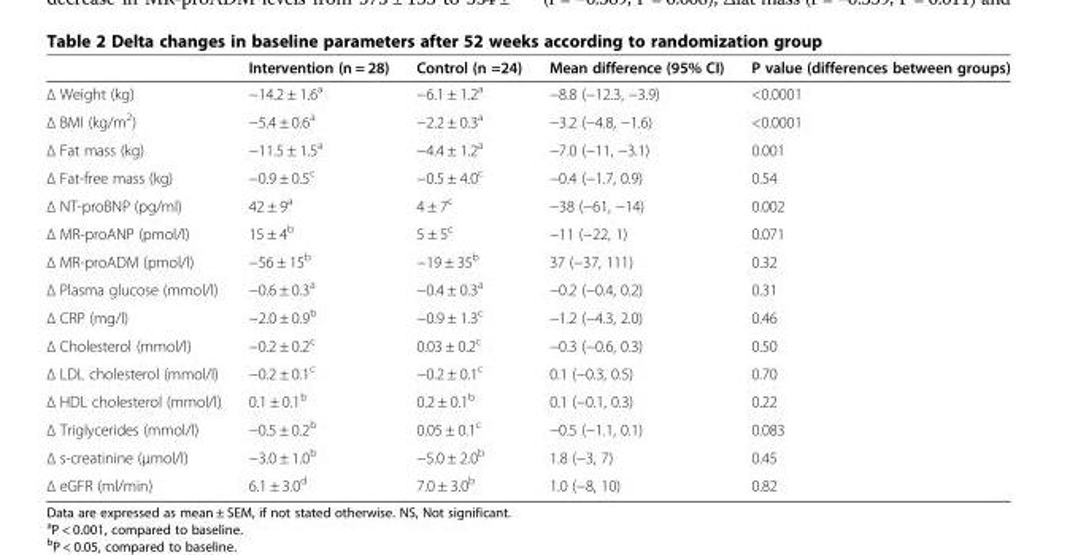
<table><thead><tr><td></td><td>Intervention (n = 28)</td><td>Control (n =24)</td><td>Mean difference (95% CI)</td><td>P value (differences between groups)</td></tr></thead><tbody><tr><td>Weight (kg)</td><td>−14.2 ± 1.6<sup>a</sup></td><td>−6.1 ± 1.2<sup>a</sup></td><td>−8.8 (−12.3, −3.9)</td><td>&lt;0.0001</td></tr><tr><td>BMI (kg/m2)</td><td>−5.4 ± 0.6<sup>a</sup></td><td>−2.2 ± 0.3<sup>a</sup></td><td>−3.2 (−4.8, −1.6)</td><td>&lt;0.0001</td></tr><tr><td>Fat mass (kg)</td><td>−11.5 ± 1.5<sup>a</sup></td><td>−4.4 ± 1.2<sup>a</sup></td><td>−7.0 (−11, −3.1)</td><td>0.001</td></tr><tr><td>Fat-free mass (kg)</td><td>−0.9 ± 0.5<sup>c</sup></td><td>−0.5 ± 4.0<sup>c</sup></td><td>−0.4 (−1.7, 0.9)</td><td>0.54</td></tr><tr><td>NT-proBNP (pg/ml)</td><td>42 ± 9<sup>a</sup></td><td>4 ± 7<sup>c</sup></td><td>−38 (−61, −14)</td><td>0.002</td></tr><tr><td>MR-proANP (pmol/l)</td><td>15 ± 4<sup>b</sup></td><td>5 ± 5<sup>c</sup></td><td>−11 (−22, 1)</td><td>0.071</td></tr><tr><td>MR-proADM (pmol/l)</td><td>−56 ± 15<sup>b</sup></td><td>−19 ± 35<sup>b</sup></td><td>37 (−37, 111)</td><td>0.32</td></tr><tr><td>Plasma glucose (mmol/l)</td><td>−0.6 ± 0.3<sup>a</sup></td><td>−0.4 ± 0.3<sup>a</sup></td><td>−0.2 (−0.4, 0.2)</td><td>0.31</td></tr><tr><td>CRP (mg/l)</td><td>−2.0 ± 0.9<sup>b</sup></td><td>−0.9 ± 1.3<sup>c</sup></td><td>−1.2 (−4.3, 2.0)</td><td>0.46</td></tr><tr><td>Cholesterol (mmol/l)</td><td>−0.2 ± 0.2<sup>c</sup></td><td>0.03 ± 0.2<sup>c</sup></td><td>−0.3 (−0.6, 0.3)</td><td>0.50</td></tr><tr><td>LDL cholesterol (mmol/l)</td><td>−0.2 ± 0.1<sup>c</sup></td><td>−0.2 ± 0.1<sup>c</sup></td><td>0.1 (−0.3, 0.5)</td><td>0.70</td></tr><tr><td>HDL cholesterol (mmol/l)</td><td>0.1 ± 0.1<sup>b</sup></td><td>0.2 ± 0.1<sup>b</sup></td><td>0.1 (−0.1, 0.3)</td><td>0.22</td></tr><tr><td>Triglycerides (mmol/l)</td><td>−0.5 ± 0.2<sup>b</sup></td><td>0.05 ± 0.1<sup>c</sup></td><td>−0.5 (−1.1, 0.1)</td><td>0.083</td></tr><tr><td>s-creatinine (μmol/l)</td><td>−3.0 ± 1.0<sup>b</sup></td><td>−5.0 ± 2.0<sup>b</sup></td><td>1.8 (−3, 7)</td><td>0.45</td></tr><tr><td>eGFR (ml/min)</td><td>6.1 ± 3.0<sup>d</sup></td><td>7.0 ± 3.0<sup>b</sup></td><td>1.0 (−8, 10)</td><td>0.82</td></tr></tbody></table>